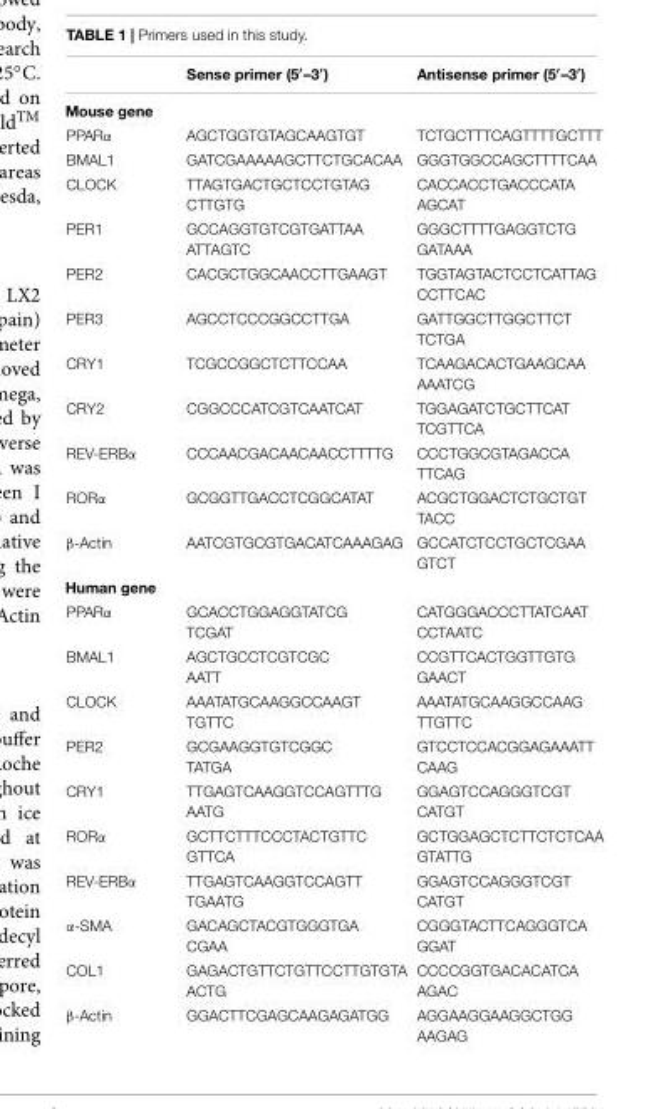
<table><thead><tr><td></td><td>Sense primer (5′–3′)</td><td>Antisense primer (5′–3′)</td></tr></thead><tbody><tr><td colspan="3">Mouse gene</td></tr><tr><td>PPARα</td><td>AGCTGGTGTAGCAAGTGT</td><td>TCTGCTTTCAGTTTTGCTTT</td></tr><tr><td>BMAL1</td><td>GATCGAAAAAGCTTCTGCACAA</td><td>GGGTGGCCAGCTTTTCAA</td></tr><tr><td>CLOCK</td><td>TTAGTGACTGCTCCTGTAG CTTGTG</td><td>CACCACCTGACCCATA AGCAT</td></tr><tr><td>PER1</td><td>GCCAGGTGTCGTGATTAA ATTAGTC</td><td>GGGCTTTTGAGGTCTG GATAAA</td></tr><tr><td>PER2</td><td>CACGCTGGCAACCTTGAAGT</td><td>TGGTAGTACTCCTCATTAG CCTTCAC</td></tr><tr><td>PER3</td><td>AGCCTCCCGGCCTTGA</td><td>GATTGGCTTGGCTTCT TCTGA</td></tr><tr><td>CRY1</td><td>TCGCCGGCTCTTCCAA</td><td>TCAAGACACTGAAGCAA AAATCG</td></tr><tr><td>CRY2</td><td>CGGCCCATCGTCAATCAT</td><td>TGGAGATCTGCTTCAT TCGTTCA</td></tr><tr><td>REV-ERBα</td><td>CCCAACGACAACAACCTTTTG</td><td>CCCTGGCGTAGACCA TTCAG</td></tr><tr><td>RORα</td><td>GCGGTTGACCTCGGCATAT</td><td>ACGCTGGACTCTGCTGT TACC</td></tr><tr><td>β-Actin</td><td>AATCGTGCGTGACATCAAAGAG</td><td>GCCATCTCCTGCTCGAA GTCT</td></tr><tr><td colspan="3">Human gene</td></tr><tr><td>PPARα</td><td>GCACCTGGAGGTATCG TCGAT</td><td>CATGGGACCCTTATCAAT CCTAATC</td></tr><tr><td>BMAL1</td><td>AGCTGCCTCGTCGC AATT</td><td>CCGTTCACTGGTTGTG GAACT</td></tr><tr><td>CLOCK</td><td>AAATATGCAAGGCCAAGT TGTTC</td><td>AAATATGCAAGGCCAAG TTGTTC</td></tr><tr><td>PER2</td><td>GCGAAGGTGTCGGC TATGA</td><td>GTCCTCCACGGAGAAATT CAAG</td></tr><tr><td>CRY1</td><td>TTGAGTCAAGGTCCAGTTTG AATG</td><td>GGAGTCCAGGGTCGT CATGT</td></tr><tr><td>RORα</td><td>GCTTCTTTCCCTACTGTTC GTTCA</td><td>GCTGGAGCTCTTCTCTCAA GTATTG</td></tr><tr><td>REV-ERBα</td><td>TTGAGTCAAGGTCCAGTT TGAATG</td><td>GGAGTCCAGGGTCGT CATGT</td></tr><tr><td>α-SMA</td><td>GACAGCTACGTGGGTGA CGAA</td><td>CGGGTACTTCAGGGTCA GGAT</td></tr><tr><td>COL1</td><td>GAGACTGTTCTGTTCCTTGTGTA ACTG</td><td>CCCCGGTGACACATCA AGAC</td></tr><tr><td>β-Actin</td><td>GGACTTCGAGCAAGAGATGG</td><td>AGGAAGGAAGGCTGG AAGAG</td></tr></tbody></table>